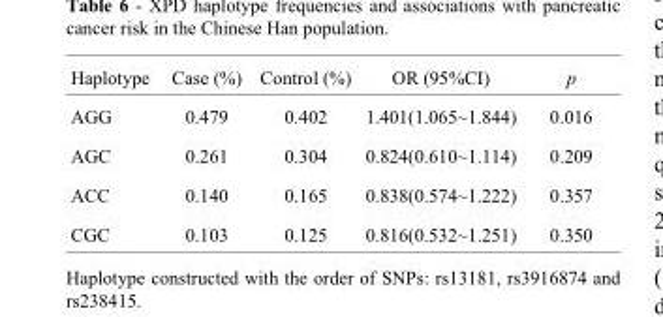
<table><thead><tr><td>Haplotype</td><td>Case (%)</td><td>Control (%)</td><td>OR (95%CI)</td><td>p</td></tr></thead><tbody><tr><td>AGG</td><td>0.479</td><td>0.402</td><td>1.401(1.065~1.844)</td><td>0.016</td></tr><tr><td>AGC</td><td>0.261</td><td>0.304</td><td>0.824(0.610~1.114)</td><td>0.209</td></tr><tr><td>ACC</td><td>0.140</td><td>0.165</td><td>0.838(0.574~1.222)</td><td>0.357</td></tr><tr><td>CGC</td><td>0.103</td><td>0.125</td><td>0.816(0.532~1.251)</td><td>0.350</td></tr></tbody></table>